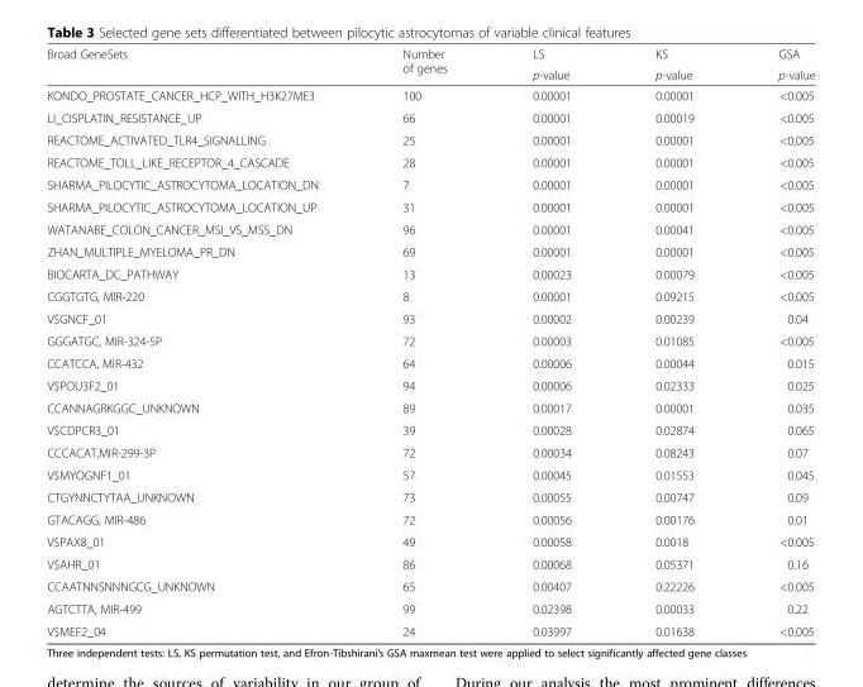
<table><thead><tr><td rowspan="2">Broad GeneSets</td><td rowspan="2">Number of genes</td><td rowspan="2">LS p-value</td><td rowspan="2">KS p-value</td><td rowspan="2">GSA p-value</td></tr><tr></tr></thead><tbody><tr><td>KONDO_PROSTATE_CANCER_HCP_WITH_H3K27ME3</td><td>100</td><td>0.00001</td><td>0.00001</td><td>&lt;0.005</td></tr><tr><td>LI_CISPLATIN_RESISTANCE_UP</td><td>66</td><td>0.00001</td><td>0.00019</td><td>&lt;0.005</td></tr><tr><td>REACTOME_ACTIVATED_TLR4_SIGNALLING</td><td>25</td><td>0.00001</td><td>0.00001</td><td>&lt;0.005</td></tr><tr><td>REACTOME_TOLL_LIKE_RECEPTOR_4_CASCADE</td><td>28</td><td>0.00001</td><td>0.00001</td><td>&lt;0.005</td></tr><tr><td>SHARMA_PILOCYTIC_ASTROCYTOMA_LOCATION_DN</td><td>7</td><td>0.00001</td><td>0.00001</td><td>&lt;0.005</td></tr><tr><td>SHARMA_PILOCYTIC_ASTROCYTOMA_LOCATION_UP</td><td>31</td><td>0.00001</td><td>0.00001</td><td>&lt;0.005</td></tr><tr><td>WATANABE_COLON_CANCER_MSI_VS_MSS_DN</td><td>96</td><td>0.00001</td><td>0.00041</td><td>&lt;0.005</td></tr><tr><td>ZHAN_MULTIPLE_MYELOMA_PR_DN</td><td>69</td><td>0.00001</td><td>0.00001</td><td>&lt;0.005</td></tr><tr><td>BIOCARTA_DC_PATHWAY</td><td>13</td><td>0.00023</td><td>0.00079</td><td>&lt;0.005</td></tr><tr><td>CGGTGTG, MIR-220</td><td>8</td><td>0.00001</td><td>0.09215</td><td>&lt;0.005</td></tr><tr><td>V$GNCF_01</td><td>93</td><td>0.00002</td><td>0.00239</td><td>0.04</td></tr><tr><td>GGGATGC, MIR-324-5P</td><td>72</td><td>0.00003</td><td>0.01085</td><td>&lt;0.005</td></tr><tr><td>CCATCCA, MIR-432</td><td>64</td><td>0.00006</td><td>0.00044</td><td>0.015</td></tr><tr><td>V$POU3F2_01</td><td>94</td><td>0.00006</td><td>0.02333</td><td>0.025</td></tr><tr><td>CCANNAGRKGGC_UNKNOWN</td><td>89</td><td>0.00017</td><td>0.00001</td><td>0.035</td></tr><tr><td>V$CDPCR3_01</td><td>39</td><td>0.00028</td><td>0.02874</td><td>0.065</td></tr><tr><td>CCCACAT,MIR-299-3P</td><td>72</td><td>0.00034</td><td>0.08243</td><td>0.07</td></tr><tr><td>V$MYOGNF1_01</td><td>57</td><td>0.00045</td><td>0.01553</td><td>0.045</td></tr><tr><td>CTGYNNCTYTAA_UNKNOWN</td><td>73</td><td>0.00055</td><td>0.00747</td><td>0.09</td></tr><tr><td>GTACAGG, MIR-486</td><td>72</td><td>0.00056</td><td>0.00176</td><td>0.01</td></tr><tr><td>V$PAX8_01</td><td>49</td><td>0.00058</td><td>0.0018</td><td>&lt;0.005</td></tr><tr><td>V$AHR_01</td><td>86</td><td>0.00068</td><td>0.05371</td><td>0.16</td></tr><tr><td>CCAATNNSNNNGCG_UNKNOWN</td><td>65</td><td>0.00407</td><td>0.22226</td><td>&lt;0.005</td></tr><tr><td>AGTCTTA, MIR-499</td><td>99</td><td>0.02398</td><td>0.00033</td><td>0.22</td></tr><tr><td>V$MEF2_04</td><td>24</td><td>0.03997</td><td>0.01638</td><td>&lt;0.005</td></tr></tbody></table>